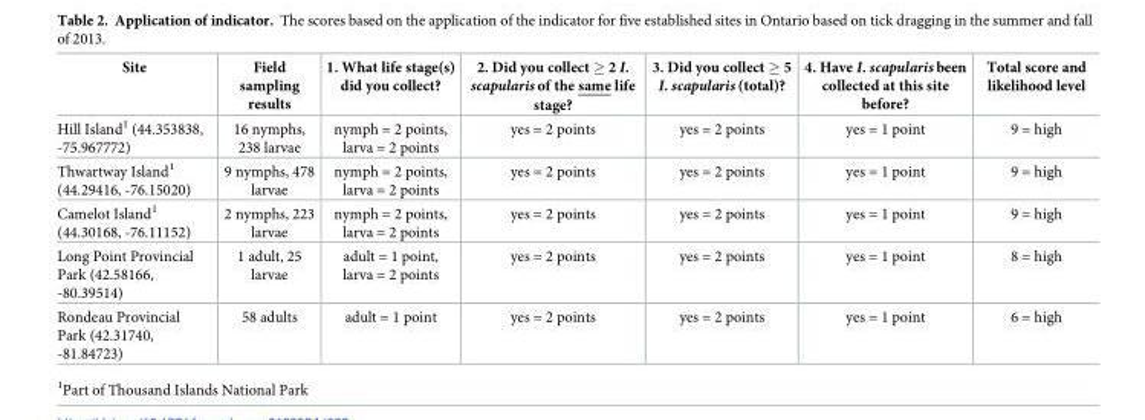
<table><thead><tr><td>Site</td><td>Field sampling results</td><td>1. What life stage(s) did you collect?</td><td>2. Did you collect ≥ 2 I. scapularis of the same life stage?</td><td>3. Did you collect ≥ 5 I. scapularis (total)?</td><td>4. Have I. scapularis been collected at this site before?</td><td>Total score and likelihood level</td></tr></thead><tbody><tr><td>Hill Island<sup>1</sup> (44.353838, -75.967772)</td><td>16 nymphs, 238 larvae</td><td>nymph = 2 points, larva = 2 points</td><td>yes = 2 points</td><td>yes = 2 points</td><td>yes = 1 point</td><td>9 = high</td></tr><tr><td>Thwartway Island<sup>1</sup> (44.29416, -76.15020)</td><td>9 nymphs, 478 larvae</td><td>nymph = 2 points, larva = 2 points</td><td>yes = 2 points</td><td>yes = 2 points</td><td>yes = 1 point</td><td>9 = high</td></tr><tr><td>Camelot Island<sup>1</sup> (44.30168, -76.11152)</td><td>2 nymphs, 223 larvae</td><td>nymph = 2 points, larva = 2 points</td><td>yes = 2 points</td><td>yes = 2 points</td><td>yes = 1 point</td><td>9 = high</td></tr><tr><td>Long Point Provincial Park (42.58166, -80.39514)</td><td>1 adult, 25 larvae</td><td>adult = 1 point, larva = 2 points</td><td>yes = 2 points</td><td>yes = 2 points</td><td>yes = 1 point</td><td>8 = high</td></tr><tr><td>Rondeau Provincial Park (42.31740, -81.84723)</td><td>58 adults</td><td>adult = 1 point</td><td>yes = 2 points</td><td>yes = 2 points</td><td>yes = 1 point</td><td>6 = high</td></tr></tbody></table>